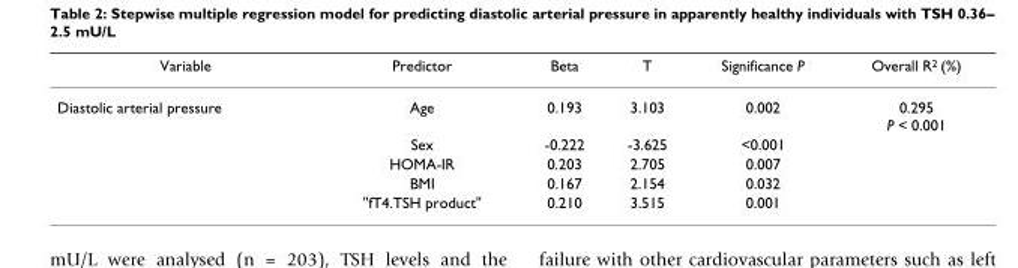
<table><thead><tr><td>Variable</td><td>Predictor</td><td>Beta</td><td>T</td><td>Significance P</td><td>Overall R<sup>2</sup> (%)</td></tr></thead><tbody><tr><td rowspan="5">Diastolic arterial pressure</td><td>Age</td><td>0.193</td><td>3.103</td><td>0.002</td><td>0.295 P &lt; 0.001</td></tr><tr><td>Sex</td><td>-0.222</td><td>-3.625</td><td>&lt;0.001</td><td></td></tr><tr><td>HOMA-IR</td><td>0.203</td><td>2.705</td><td>0.007</td><td></td></tr><tr><td>BMI</td><td>0.167</td><td>2.154</td><td>0.032</td><td></td></tr><tr><td>&quot;fT4.TSH product&quot;</td><td>0.210</td><td>3.515</td><td>0.001</td><td></td></tr></tbody></table>